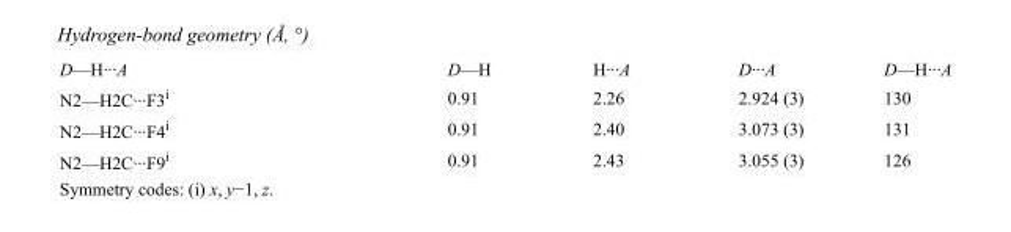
<table><tbody><tr><td>D—H···A</td><td>D—H</td><td>H···A</td><td>D···A</td><td>D—H···A</td></tr><tr><td>N2—H2C···F3<sup>i</sup></td><td>0.91</td><td>2.26</td><td>2.924 (3)</td><td>130</td></tr><tr><td>N2—H2C···F4<sup>i</sup></td><td>0.91</td><td>2.40</td><td>3.073 (3)</td><td>131</td></tr><tr><td>N2—H2C···F9<sup>i</sup></td><td>0.91</td><td>2.43</td><td>3.055 (3)</td><td>126</td></tr></tbody></table>